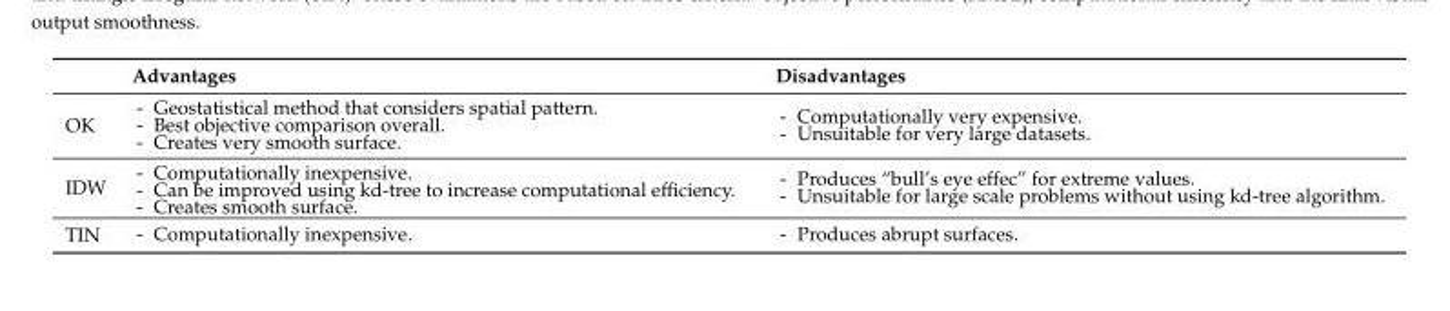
<table><thead><tr><td></td><td>Advantages</td><td>Disadvantages</td></tr></thead><tbody><tr><td>OK</td><td>- Geostatistical method that considers spatial pattern. - Best objective comparison overall. - Creates very smooth surface.</td><td>- Computationally very expensive. - Unsuitable for very large datasets.</td></tr><tr><td>IDW</td><td>- Computationally inexpensive. - Can be improved using kd-tree to increase computational efficiency. - Creates smooth surface.</td><td>- Produces “bull’s eye effec” for extreme values. - Unsuitable for large scale problems without using kd-tree algorithm.</td></tr><tr><td>TIN</td><td>- Computationally inexpensive.</td><td>- Produces abrupt surfaces.</td></tr></tbody></table>